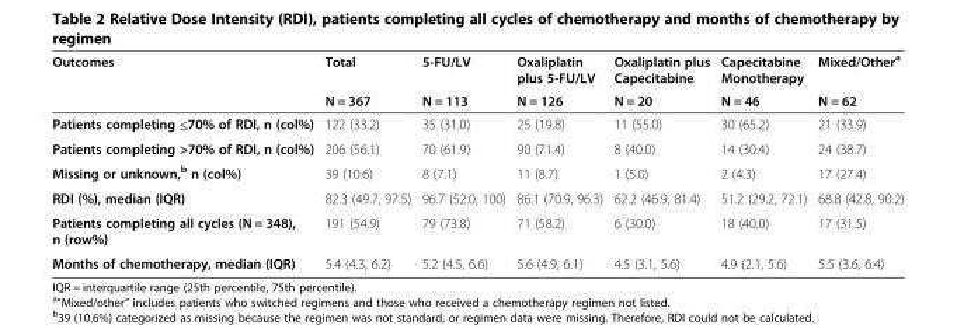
<table><thead><tr><td rowspan="2">Outcomes</td><td rowspan="2">Total N = 367</td><td rowspan="2">5-FU/LV N = 113</td><td rowspan="2">Oxaliplatin plus 5-FU/LV N = 126</td><td rowspan="2">Oxaliplatin plus Capecitabine N = 20</td><td rowspan="2">Capecitabine Monotherapy N = 46</td><td rowspan="2">Mixed/Other<sup>a</sup> N = 62</td></tr><tr></tr></thead><tbody><tr><td>Patients completing ≤70% of RDI, n (col%)</td><td>122 (33.2)</td><td>35 (31.0)</td><td>25 (19.8)</td><td>11 (55.0)</td><td>30 (65.2)</td><td>21 (33.9)</td></tr><tr><td>Patients completing &gt;70% of RDI, n (col%)</td><td>206 (56.1)</td><td>70 (61.9)</td><td>90 (71.4)</td><td>8 (40.0)</td><td>14 (30.4)</td><td>24 (38.7)</td></tr><tr><td>Missing or unknown,<sup>b</sup> n (col%)</td><td>39 (10.6)</td><td>8 (7.1)</td><td>11 (8.7)</td><td>1 (5.0)</td><td>2 (4.3)</td><td>17 (27.4)</td></tr><tr><td>RDI (%), median (IQR)</td><td>82.3 (49.7, 97.5)</td><td>96.7 (52.0, 100)</td><td>86.1 (70.9, 96.3)</td><td>62.2 (46.9, 81.4)</td><td>51.2 (29.2, 72.1)</td><td>68.8 (42.8, 90.2)</td></tr><tr><td>Patients completing all cycles (N = 348), n (row%)</td><td>191 (54.9)</td><td>79 (73.8)</td><td>71 (58.2)</td><td>6 (30.0)</td><td>18 (40.0)</td><td>17 (31.5)</td></tr><tr><td>Months of chemotherapy, median (IQR)</td><td>5.4 (4.3, 6.2)</td><td>5.2 (4.5, 6.6)</td><td>5.6 (4.9, 6.1)</td><td>4.5 (3.1, 5.6)</td><td>4.9 (2.1, 5.6)</td><td>5.5 (3.6, 6.4)</td></tr></tbody></table>